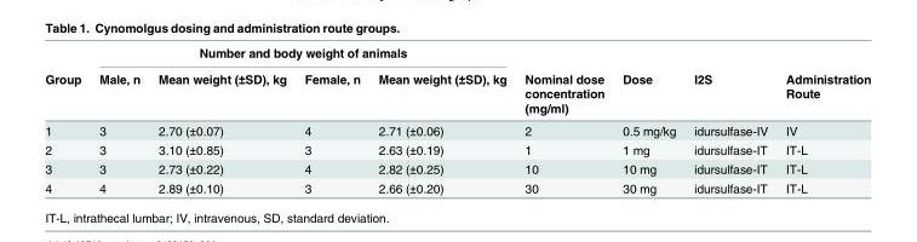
<table><thead><tr><td rowspan="2">Group</td><td colspan="4">Number and body weight of animals</td><td rowspan="2">Nominal dose concentration (mg/ml)</td><td rowspan="2">Dose</td><td rowspan="2">I2S</td><td rowspan="2">Administration Route</td></tr><tr><td>Male, n</td><td>Mean weight (±SD), kg</td><td>Female, n</td><td>Mean weight (±SD), kg</td></tr></thead><tbody><tr><td>1</td><td>3</td><td>2.70 (±0.07)</td><td>4</td><td>2.71 (±0.06)</td><td>2</td><td>0.5 mg/kg</td><td>idursulfase-IV</td><td>IV</td></tr><tr><td>2</td><td>3</td><td>3.10 (±0.85)</td><td>3</td><td>2.63 (±0.19)</td><td>1</td><td>1 mg</td><td>idursulfase-IT</td><td>IT-L</td></tr><tr><td>3</td><td>3</td><td>2.73 (±0.22)</td><td>4</td><td>2.82 (±0.25)</td><td>10</td><td>10 mg</td><td>idursulfase-IT</td><td>IT-L</td></tr><tr><td>4</td><td>4</td><td>2.89 (±0.10)</td><td>3</td><td>2.66 (±0.20)</td><td>30</td><td>30 mg</td><td>idursulfase-IT</td><td>IT-L</td></tr></tbody></table>